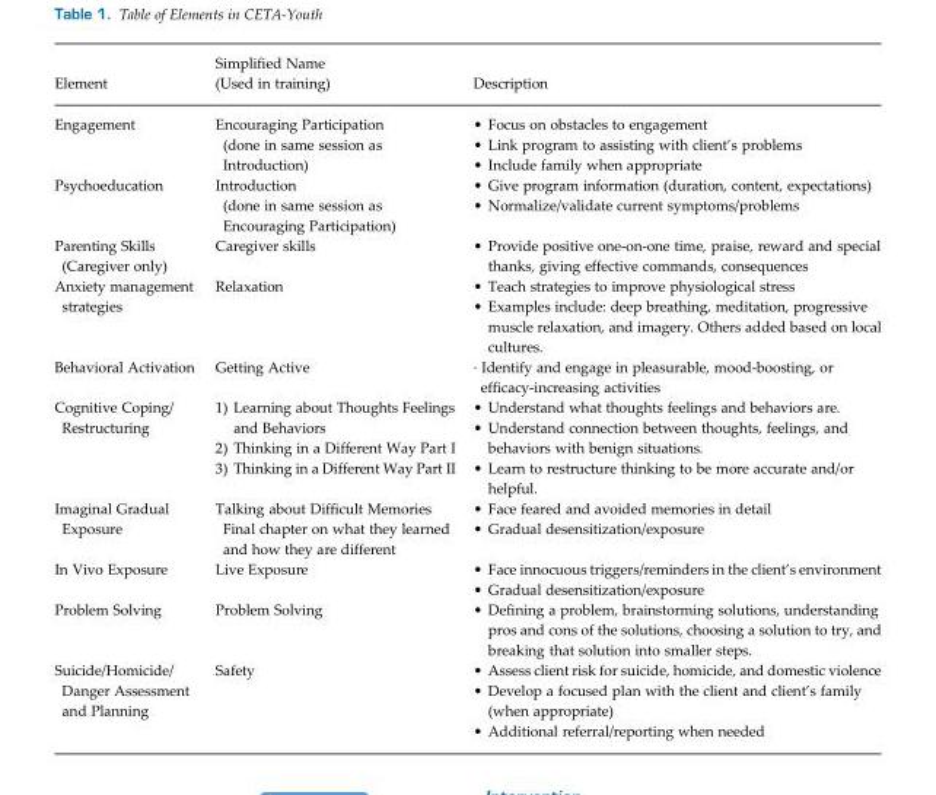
<table><thead><tr><td>Element</td><td>Simplified Name (Used in training)</td><td>Description</td></tr></thead><tbody><tr><td>Engagement</td><td>Encouraging Participation (done in same session as Introduction)</td><td>• Focus on obstacles to engagement • Link program to assisting with client’s problems • Include family when appropriate</td></tr><tr><td>Psychoeducation</td><td>Introduction (done in same session as Encouraging Participation)</td><td>• Give program information (duration, content, expectations) • Normalize/validate current symptoms/problems</td></tr><tr><td>Parenting Skills (Caregiver only)</td><td>Caregiver skills</td><td>• Provide positive one-on-one time, praise, reward and special thanks, giving effective commands, consequences</td></tr><tr><td>Anxiety management strategies</td><td>Relaxation</td><td>• Teach strategies to improve physiological stress • Examples include: deep breathing, meditation, progressive muscle relaxation, and imagery. Others added based on local cultures.</td></tr><tr><td>Behavioral Activation</td><td>Getting Active</td><td>· Identify and engage in pleasurable, mood-boosting, or efficacy-increasing activities</td></tr><tr><td>Cognitive Coping/ Restructuring</td><td>1) Learning about Thoughts Feelings and Behaviors 2) Thinking in a Different Way Part I 3) Thinking in a Different Way Part II</td><td>• Understand what thoughts feelings and behaviors are. • Understand connection between thoughts, feelings, and behaviors with benign situations. • Learn to restructure thinking to be more accurate and/or helpful.</td></tr><tr><td>Imaginal Gradual Exposure</td><td>Talking about Difficult Memories Final chapter on what they learned and how they are different</td><td>• Face feared and avoided memories in detail • Gradual desensitization/exposure</td></tr><tr><td>In Vivo Exposure</td><td>Live Exposure</td><td>• Face innocuous triggers/reminders in the client’s environment • Gradual desensitization/exposure</td></tr><tr><td>Problem Solving</td><td>Problem Solving</td><td>• Defining a problem, brainstorming solutions, understanding pros and cons of the solutions, choosing a solution to try, and breaking that solution into smaller steps.</td></tr><tr><td>Suicide/Homicide/ Danger Assessment and Planning</td><td>Safety</td><td>• Assess client risk for suicide, homicide, and domestic violence • Develop a focused plan with the client and client’s family (when appropriate) • Additional referral/reporting when needed</td></tr></tbody></table>